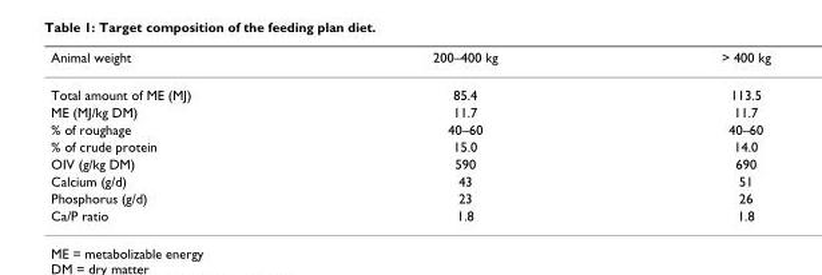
<table><thead><tr><td>Animal weight</td><td>200–400 kg</td><td>&gt; 400 kg</td></tr></thead><tbody><tr><td>Total amount of ME (MJ)</td><td>85.4</td><td>113.5</td></tr><tr><td>ME (MJ/kg DM)</td><td>11.7</td><td>11.7</td></tr><tr><td>% of roughage</td><td>40–60</td><td>40–60</td></tr><tr><td>% of crude protein</td><td>15.0</td><td>14.0</td></tr><tr><td>OIV (g/kg DM)</td><td>590</td><td>690</td></tr><tr><td>Calcium (g/d)</td><td>43</td><td>51</td></tr><tr><td>Phosphorus (g/d)</td><td>23</td><td>26</td></tr><tr><td>Ca/P ratio</td><td>1.8</td><td>1.8</td></tr></tbody></table>